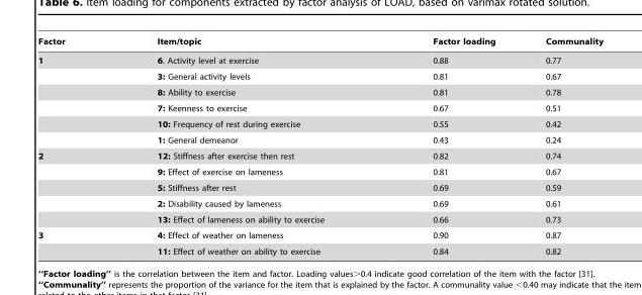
<table><thead><tr><td>Factor</td><td>Item/topic</td><td>Factor loading</td><td>Communality</td></tr></thead><tbody><tr><td rowspan="6">1</td><td>6. Activity level at exercise</td><td>0.88</td><td>0.77</td></tr><tr><td>3: General activity levels</td><td>0.81</td><td>0.67</td></tr><tr><td>8: Ability to exercise</td><td>0.81</td><td>0.78</td></tr><tr><td>7: Keenness to exercise</td><td>0.67</td><td>0.51</td></tr><tr><td>10: Frequency of rest during exercise</td><td>0.55</td><td>0.42</td></tr><tr><td>1: General demeanor</td><td>0.43</td><td>0.24</td></tr><tr><td rowspan="5">2</td><td>12: Stiffness after exercise then rest</td><td>0.82</td><td>0.74</td></tr><tr><td>9: Effect of exercise on lameness</td><td>0.81</td><td>0.67</td></tr><tr><td>5: Stiffness after rest</td><td>0.69</td><td>0.59</td></tr><tr><td>2: Disability caused by lameness</td><td>0.69</td><td>0.61</td></tr><tr><td>13: Effect of lameness on ability to exercise</td><td>0.66</td><td>0.73</td></tr><tr><td rowspan="2">3</td><td>4: Effect of weather on lameness</td><td>0.90</td><td>0.87</td></tr><tr><td>11: Effect of weather on ability to exercise</td><td>0.84</td><td>0.82</td></tr></tbody></table>